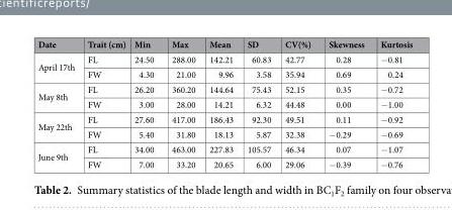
<table><thead><tr><td>Date</td><td>Trait (cm)</td><td>Min</td><td>Max</td><td>Mean</td><td>SD</td><td>CV(%)</td><td>Skewness</td><td>Kurtosis</td></tr></thead><tbody><tr><td rowspan="2">April 17th</td><td>FL</td><td>24.50</td><td>288.00</td><td>142.21</td><td>60.83</td><td>42.77</td><td>0.28</td><td>−0.81</td></tr><tr><td>FW</td><td>4.30</td><td>21.00</td><td>9.96</td><td>3.58</td><td>35.94</td><td>0.69</td><td>0.24</td></tr><tr><td rowspan="2">May 8th</td><td>FL</td><td>26.20</td><td>360.20</td><td>144.64</td><td>75.43</td><td>52.15</td><td>0.35</td><td>−0.72</td></tr><tr><td>FW</td><td>3.00</td><td>28.00</td><td>14.21</td><td>6.32</td><td>44.48</td><td>0.00</td><td>−1.00</td></tr><tr><td rowspan="2">May 22th</td><td>FL</td><td>27.60</td><td>417.00</td><td>186.43</td><td>92.30</td><td>49.51</td><td>0.11</td><td>−0.92</td></tr><tr><td>FW</td><td>5.40</td><td>31.80</td><td>18.13</td><td>5.87</td><td>32.38</td><td>−0.29</td><td>−0.69</td></tr><tr><td rowspan="2">June 9th</td><td>FL</td><td>34.00</td><td>463.00</td><td>227.83</td><td>105.57</td><td>46.34</td><td>0.07</td><td>−1.07</td></tr><tr><td>FW</td><td>7.00</td><td>33.20</td><td>20.65</td><td>6.00</td><td>29.06</td><td>−0.39</td><td>−0.76</td></tr></tbody></table>